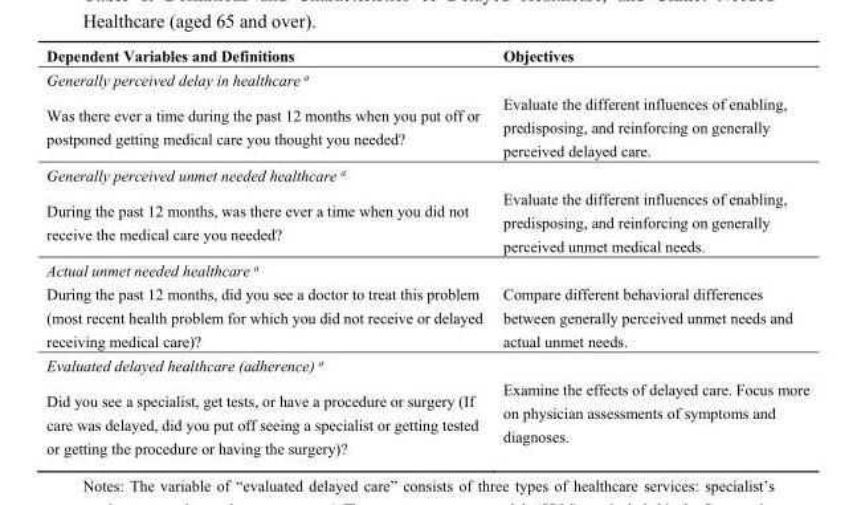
<table><thead><tr><td>Dependent Variables and Definitions</td><td>Objectives</td></tr></thead><tbody><tr><td colspan="2">Generally perceived delay in healthcare <sup>a</sup></td></tr><tr><td>Was there ever a time during the past 12 months when you put off or postponed getting medical care you thought you needed?</td><td>Evaluate the different influences of enabling, predisposing, and reinforcing on generally perceived delayed care.</td></tr><tr><td colspan="2">Generally perceived unmet needed healthcare <sup>a</sup></td></tr><tr><td>During the past 12 months, was there ever a time when you did not receive the medical care you needed?</td><td>Evaluate the different influences of enabling, predisposing, and reinforcing on generally perceived unmet medical needs.</td></tr><tr><td colspan="2">Actual unmet needed healthcare <sup>a</sup></td></tr><tr><td>During the past 12 months, did you see a doctor to treat this problem (most recent health problem for which you did not receive or delayed receiving medical care)?</td><td>Compare different behavioral differences between generally perceived unmet needs and actual unmet needs.</td></tr><tr><td colspan="2">Evaluated delayed healthcare (adherence) <sup>a</sup></td></tr><tr><td>Did you see a specialist, get tests, or have a procedure or surgery (If care was delayed, did you put off seeing a specialist or getting tested or getting the procedure or having the surgery)?</td><td>Examine the effects of delayed care. Focus more on physician assessments of symptoms and diagnoses.</td></tr></tbody></table>